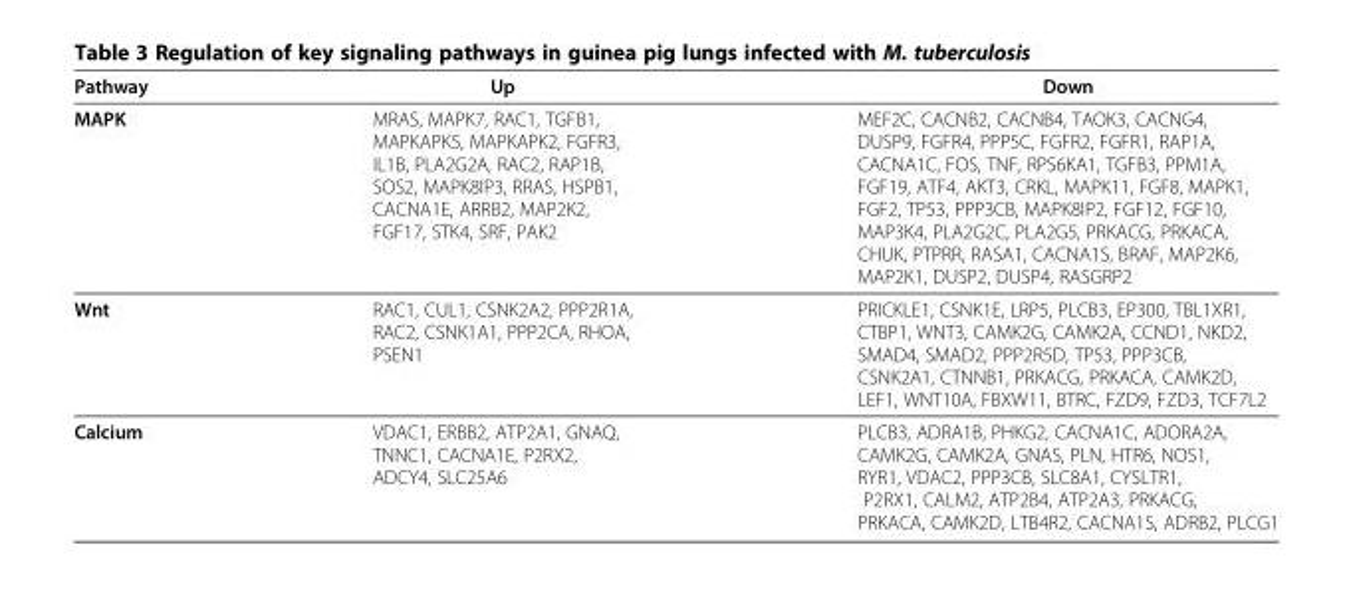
<table><thead><tr><td>Pathway</td><td>Up</td><td>Down</td></tr></thead><tbody><tr><td>MAPK</td><td>MRAS, MAPK7, RAC1, TGFB1, MAPKAPK5, MAPKAPK2, FGFR3, IL1B, PLA2G2A, RAC2, RAP1B, SOS2, MAPK8IP3, RRAS, HSPB1, CACNA1E, ARRB2, MAP2K2, FGF17, STK4, SRF, PAK2</td><td>MEF2C, CACNB2, CACNB4, TAOK3, CACNG4, DUSP9, FGFR4, PPP5C, FGFR2, FGFR1, RAP1A, CACNA1C, FOS, TNF, RPS6KA1, TGFB3, PPM1A, FGF19, ATF4, AKT3, CRKL, MAPK11, FGF8, MAPK1, FGF2, TP53, PPP3CB, MAPK8IP2, FGF12, FGF10, MAP3K4, PLA2G2C, PLA2G5, PRKACG, PRKACA, CHUK, PTPRR, RASA1, CACNA1S, BRAF, MAP2K6, MAP2K1, DUSP2, DUSP4, RASGRP2</td></tr><tr><td>Wnt</td><td>RAC1, CUL1, CSNK2A2, PPP2R1A, RAC2, CSNK1A1, PPP2CA, RHOA, PSEN1</td><td>PRICKLE1, CSNK1E, LRP5, PLCB3, EP300, TBL1XR1, CTBP1, WNT3, CAMK2G, CAMK2A, CCND1, NKD2, SMAD4, SMAD2, PPP2R5D, TP53, PPP3CB, CSNK2A1, CTNNB1, PRKACG, PRKACA, CAMK2D, LEF1, WNT10A, FBXW11, BTRC, FZD9, FZD3, TCF7L2</td></tr><tr><td>Calcium</td><td>VDAC1, ERBB2, ATP2A1, GNAQ, TNNC1, CACNA1E, P2RX2, ADCY4, SLC25A6</td><td>PLCB3, ADRA1B, PHKG2, CACNA1C, ADORA2A, CAMK2G, CAMK2A, GNAS, PLN, HTR6, NOS1, RYR1, VDAC2, PPP3CB, SLC8A1, CYSLTR1, P2RX1, CALM2, ATP2B4, ATP2A3, PRKACG, PRKACA, CAMK2D, LTB4R2, CACNA1S, ADRB2, PLCG1</td></tr></tbody></table>